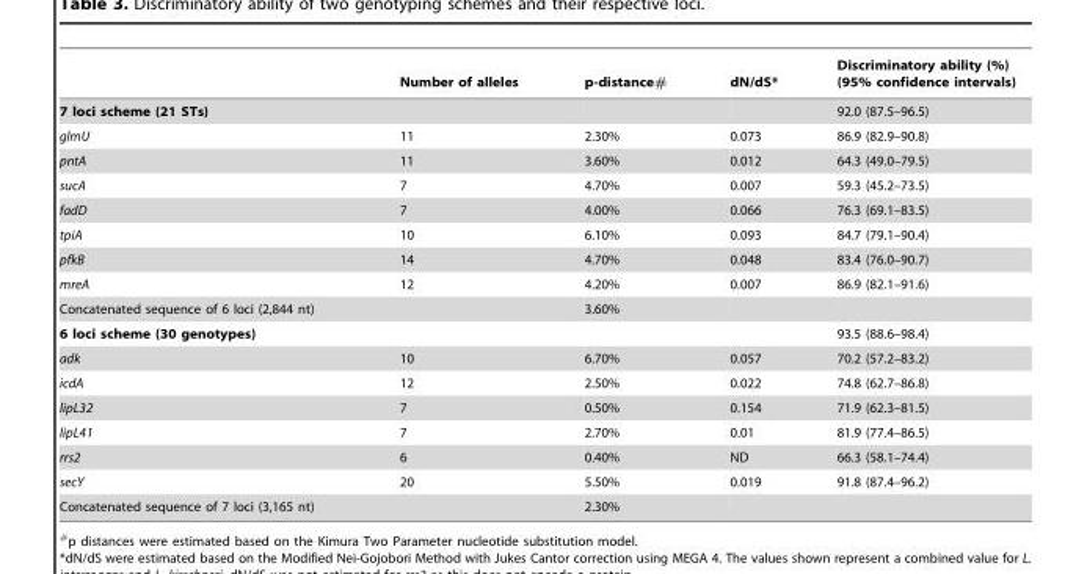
<table><thead><tr><td></td><td>Number of alleles</td><td>p-distance#</td><td>dN/dS*</td><td>Discriminatory ability (%) (95% confidence intervals)</td></tr></thead><tbody><tr><td>7 loci scheme (21 STs)</td><td></td><td></td><td></td><td>92.0 (87.5–96.5)</td></tr><tr><td>glmU</td><td>11</td><td>2.30%</td><td>0.073</td><td>86.9 (82.9–90.8)</td></tr><tr><td>pntA</td><td>11</td><td>3.60%</td><td>0.012</td><td>64.3 (49.0–79.5)</td></tr><tr><td>sucA</td><td>7</td><td>4.70%</td><td>0.007</td><td>59.3 (45.2–73.5)</td></tr><tr><td>fadD</td><td>7</td><td>4.00%</td><td>0.066</td><td>76.3 (69.1–83.5)</td></tr><tr><td>tpiA</td><td>10</td><td>6.10%</td><td>0.093</td><td>84.7 (79.1–90.4)</td></tr><tr><td>pfkB</td><td>14</td><td>4.70%</td><td>0.048</td><td>83.4 (76.0–90.7)</td></tr><tr><td>mreA</td><td>12</td><td>4.20%</td><td>0.007</td><td>86.9 (82.1–91.6)</td></tr><tr><td>Concatenated sequence of 6 loci (2,844 nt)</td><td></td><td>3.60%</td><td></td><td></td></tr><tr><td>6 loci scheme (30 genotypes)</td><td></td><td></td><td></td><td>93.5 (88.6–98.4)</td></tr><tr><td>adk</td><td>10</td><td>6.70%</td><td>0.057</td><td>70.2 (57.2–83.2)</td></tr><tr><td>icdA</td><td>12</td><td>2.50%</td><td>0.022</td><td>74.8 (62.7–86.8)</td></tr><tr><td>lipL32</td><td>7</td><td>0.50%</td><td>0.154</td><td>71.9 (62.3–81.5)</td></tr><tr><td>lipL41</td><td>7</td><td>2.70%</td><td>0.01</td><td>81.9 (77.4–86.5)</td></tr><tr><td>rrs2</td><td>6</td><td>0.40%</td><td>ND</td><td>66.3 (58.1–74.4)</td></tr><tr><td>secY</td><td>20</td><td>5.50%</td><td>0.019</td><td>91.8 (87.4–96.2)</td></tr><tr><td>Concatenated sequence of 7 loci (3,165 nt)</td><td></td><td>2.30%</td><td></td><td></td></tr></tbody></table>